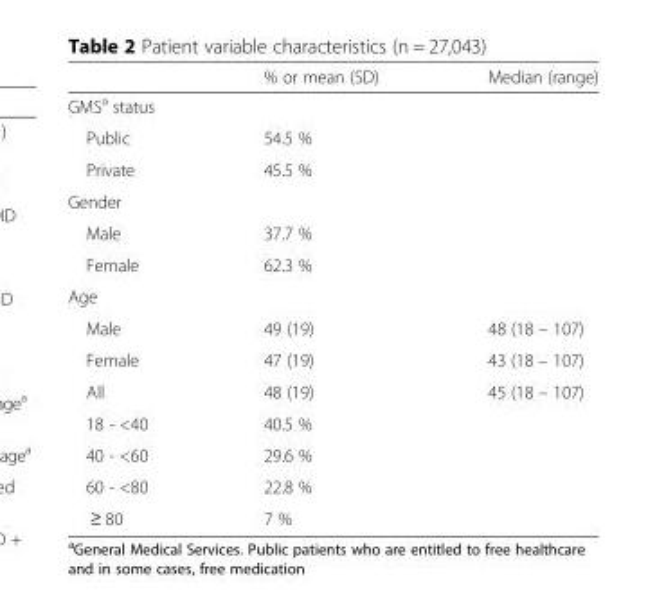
<table><thead><tr><td></td><td>% or mean (SD)</td><td>Median (range)</td></tr></thead><tbody><tr><td colspan="3">GMS<sup>a</sup> status</td></tr><tr><td>Public</td><td>54.5 %</td><td></td></tr><tr><td>Private</td><td>45.5 %</td><td></td></tr><tr><td colspan="3">Gender</td></tr><tr><td>Male</td><td>37.7 %</td><td></td></tr><tr><td>Female</td><td>62.3 %</td><td></td></tr><tr><td colspan="3">Age</td></tr><tr><td>Male</td><td>49 (19)</td><td>48 (18 – 107)</td></tr><tr><td>Female</td><td>47 (19)</td><td>43 (18 – 107)</td></tr><tr><td>All</td><td>48 (19)</td><td>45 (18 – 107)</td></tr><tr><td>18 - &lt;40</td><td>40.5 %</td><td></td></tr><tr><td>40 - &lt;60</td><td>29.6 %</td><td></td></tr><tr><td>60 - &lt;80</td><td>22.8 %</td><td></td></tr><tr><td>≥ 80</td><td>7 %</td><td></td></tr></tbody></table>